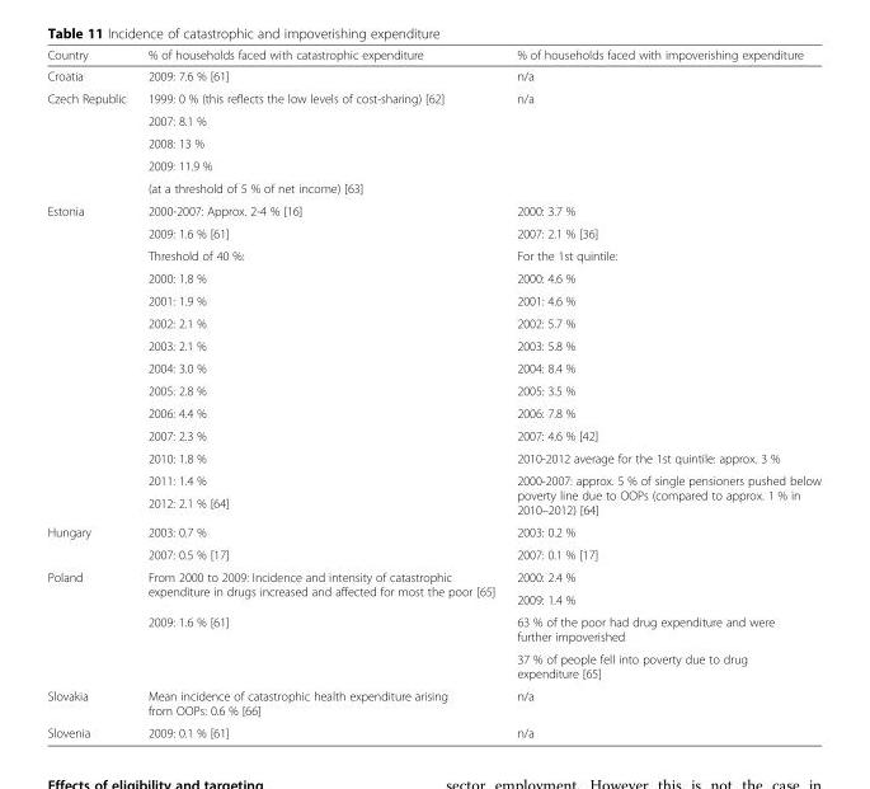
<table><thead><tr><td>Country</td><td>% of households faced with catastrophic expenditure</td><td>% of households faced with impoverishing expenditure</td></tr></thead><tbody><tr><td>Croatia</td><td>2009: 7.6 % [61]</td><td>n/a</td></tr><tr><td rowspan="5">Czech Republic</td><td>1999: 0 % (this reflects the low levels of cost-sharing) [62]</td><td rowspan="5">n/a</td></tr><tr><td>2007: 8.1 %</td></tr><tr><td>2008: 13 %</td></tr><tr><td>2009: 11.9 %</td></tr><tr><td>(at a threshold of 5 % of net income) [63]</td></tr><tr><td rowspan="14">Estonia</td><td>2000-2007: Approx. 2-4 % [16]</td><td>2000: 3.7 %</td></tr><tr><td>2009: 1.6 % [61]</td><td>2007: 2.1 % [36]</td></tr><tr><td>Threshold of 40 %:</td><td>For the 1st quintile:</td></tr><tr><td>2000: 1.8 %</td><td>2000: 4.6 %</td></tr><tr><td>2001: 1.9 %</td><td>2001: 4.6 %</td></tr><tr><td>2002: 2.1 %</td><td>2002: 5.7 %</td></tr><tr><td>2003: 2.1 %</td><td>2003: 5.8 %</td></tr><tr><td>2004: 3.0 %</td><td>2004: 8.4 %</td></tr><tr><td>2005: 2.8 %</td><td>2005: 3.5 %</td></tr><tr><td>2006: 4.4 %</td><td>2006: 7.8 %</td></tr><tr><td>2007: 2.3 %</td><td>2007: 4.6 % [42]</td></tr><tr><td>2010: 1.8 %</td><td>2010-2012 average for the 1st quintile: approx. 3 %</td></tr><tr><td>2011: 1.4 %</td><td rowspan="2">2000-2007: approx. 5 % of single pensioners pushed below poverty line due to OOPs (compared to approx. 1 % in 2010–2012) [64]</td></tr><tr><td>2012: 2.1 % [64]</td></tr><tr><td rowspan="2">Hungary</td><td>2003: 0.7 %</td><td>2003: 0.2 %</td></tr><tr><td>2007: 0.5 % [17]</td><td>2007: 0.1 % [17]</td></tr><tr><td rowspan="4">Poland</td><td rowspan="2">From 2000 to 2009: Incidence and intensity of catastrophic expenditure in drugs increased and affected for most the poor [65]</td><td>2000: 2.4 %</td></tr><tr><td>2009: 1.4 %</td></tr><tr><td rowspan="2">2009: 1.6 % [61]</td><td>63 % of the poor had drug expenditure and were further impoverished</td></tr><tr><td>37 % of people fell into poverty due to drug expenditure [65]</td></tr><tr><td>Slovakia</td><td>Mean incidence of catastrophic health expenditure arising from OOPs: 0.6 % [66]</td><td>n/a</td></tr><tr><td>Slovenia</td><td>2009: 0.1 % [61]</td><td>n/a</td></tr></tbody></table>